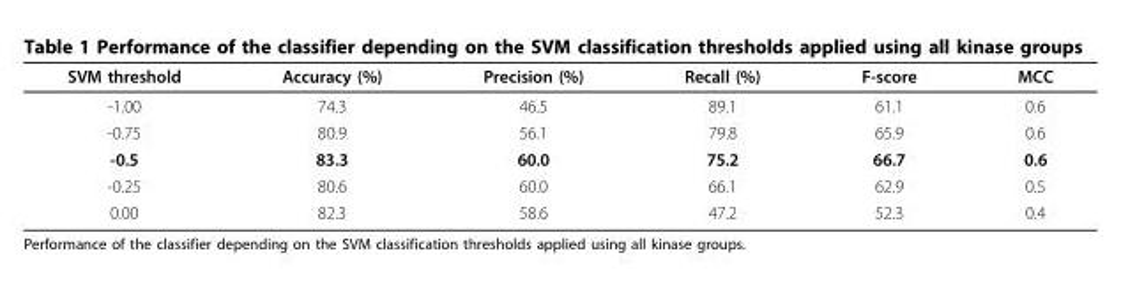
<table><thead><tr><td>SVM threshold</td><td>Accuracy (%)</td><td>Precision (%)</td><td>Recall (%)</td><td>F-score</td><td>MCC</td></tr></thead><tbody><tr><td>-1.00</td><td>74.3</td><td>46.5</td><td>89.1</td><td>61.1</td><td>0.6</td></tr><tr><td>-0.75</td><td>80.9</td><td>56.1</td><td>79.8</td><td>65.9</td><td>0.6</td></tr><tr><td>-0.5</td><td>83.3</td><td>60.0</td><td>75.2</td><td>66.7</td><td>0.6</td></tr><tr><td>-0.25</td><td>80.6</td><td>60.0</td><td>66.1</td><td>62.9</td><td>0.5</td></tr><tr><td>0.00</td><td>82.3</td><td>58.6</td><td>47.2</td><td>52.3</td><td>0.4</td></tr></tbody></table>